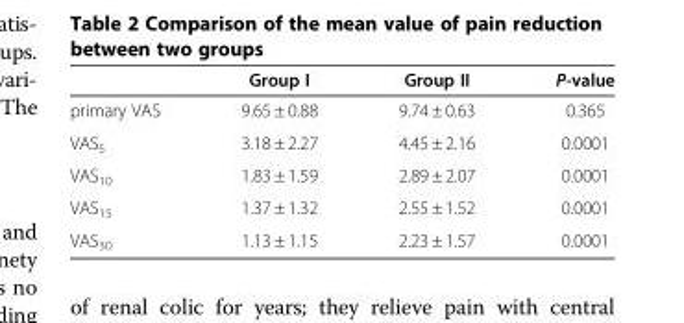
<table><thead><tr><td></td><td>Group I</td><td>Group II</td><td>P-value</td></tr></thead><tbody><tr><td>primary VAS</td><td>9.65 ± 0.88</td><td>9.74 ± 0.63</td><td>0.365</td></tr><tr><td>VAS<sup>5</sup></td><td>3.18 ± 2.27</td><td>4.45 ± 2.16</td><td>0.0001</td></tr><tr><td>VAS<sup>10</sup></td><td>1.83 ± 1.59</td><td>2.89 ± 2.07</td><td>0.0001</td></tr><tr><td>VAS<sup>15</sup></td><td>1.37 ± 1.32</td><td>2.55 ± 1.52</td><td>0.0001</td></tr><tr><td>VAS<sup>30</sup></td><td>1.13 ± 1.15</td><td>2.23 ± 1.57</td><td>0.0001</td></tr></tbody></table>